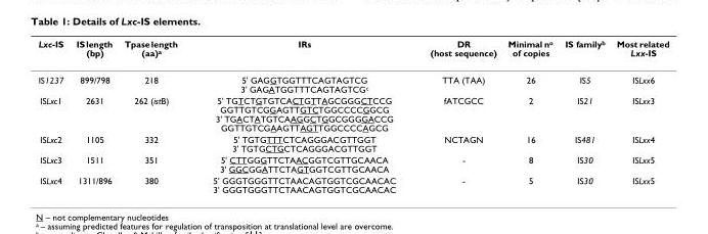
<table><thead><tr><td>Lxc-IS</td><td>IS length (bp)</td><td>Tpase length (aa)<sup>a</sup></td><td>IRs</td><td>DR (host sequence)</td><td>Minimal n<sup>o</sup> of copies</td><td>IS family<sup>b</sup></td><td>Most related Lxx-IS</td></tr></thead><tbody><tr><td>IS1237</td><td>899/798</td><td>218</td><td>5&#x27; GAGGTGGTTTCAGTAGTCG 3&#x27; GAGATGGTTTCAGTAGTCG<sup>c</sup></td><td>TTA (TAA)</td><td>26</td><td>IS5</td><td>ISLxx6</td></tr><tr><td>ISLxc1</td><td>2631</td><td>262 (istB)</td><td>5&#x27; TGTCTGTGTCACTGTTAGCGGGCTCCG GGTTGTCGGAGTTGTCTGGCCCCGGCG 3&#x27; TGACTATGTCAAGGCTGGCGGGGACCG GGTTGTCGAAGTTAGTTGGCCCCAGCG</td><td>fATCGCC</td><td>2</td><td>IS21</td><td>ISLxx3</td></tr><tr><td>ISLxc2</td><td>1105</td><td>332</td><td>5&#x27; TGTGTTTCTCAGGGACGTTGGT 3&#x27; TGTGCTGCTCAGGGACGTTGGT</td><td>NCTAGN</td><td>16</td><td>IS481</td><td>ISLxx4</td></tr><tr><td>ISLxc3</td><td>1511</td><td>351</td><td>5&#x27; CTTGGGTTCTAACGGTCGTTGCAACA 3&#x27; GGCGGATTCTAGTGGTCGTTGCAACA</td><td>-</td><td>8</td><td>IS30</td><td>ISLxx5</td></tr><tr><td>ISLxc4</td><td>1311/896</td><td>380</td><td>5&#x27; GGGTGGGTTCTAACAGTGGTCGCAACAC 3&#x27; GGGTGGGTTCTAACAGTGGTCGCAACAC</td><td>-</td><td>5</td><td>IS30</td><td>ISLxx5</td></tr></tbody></table>